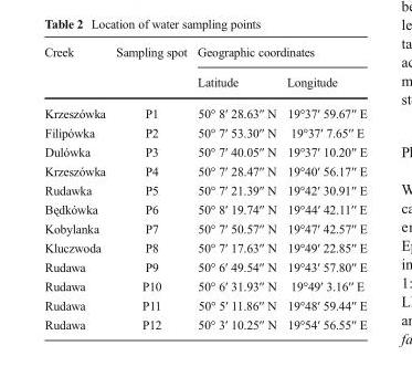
<table><thead><tr><td rowspan="2">Creek</td><td rowspan="2">Sampling spot</td><td colspan="2">Geographic coordinates</td></tr><tr><td>Latitude</td><td>Longitude</td></tr></thead><tbody><tr><td>Krzeszówka</td><td>P1</td><td>50° 8′ 28.63′′ N</td><td>19°37′ 59.67′′ E</td></tr><tr><td>Filipówka</td><td>P2</td><td>50° 7′ 53.30′′ N</td><td>19°37′ 7.65′′ E</td></tr><tr><td>Dulówka</td><td>P3</td><td>50° 7′ 40.05′′ N</td><td>19°37′ 10.20′′ E</td></tr><tr><td>Krzeszówka</td><td>P4</td><td>50° 7′ 28.47′′ N</td><td>19°40′ 56.17′′ E</td></tr><tr><td>Rudawka</td><td>P5</td><td>50° 7′ 21.39′′ N</td><td>19°42′ 30.91′′ E</td></tr><tr><td>Będkówka</td><td>P6</td><td>50° 8′ 19.74′′ N</td><td>19°44′ 42.11′′ E</td></tr><tr><td>Kobylanka</td><td>P7</td><td>50° 7′ 50.57′′ N</td><td>19°47′ 42.57′′ E</td></tr><tr><td>Kluczwoda</td><td>P8</td><td>50° 7′ 17.63′′ N</td><td>19°49′ 22.85′′ E</td></tr><tr><td>Rudawa</td><td>P9</td><td>50° 6′ 49.54′′ N</td><td>19°43′ 57.80′′ E</td></tr><tr><td>Rudawa</td><td>P10</td><td>50° 6′ 31.93′′ N</td><td>19°49′ 3.16′′ E</td></tr><tr><td>Rudawa</td><td>P11</td><td>50° 5′ 11.86′′ N</td><td>19°48′ 59.44′′ E</td></tr><tr><td>Rudawa</td><td>P12</td><td>50° 3′ 10.25′′ N</td><td>19°54′ 56.55′′ E</td></tr></tbody></table>